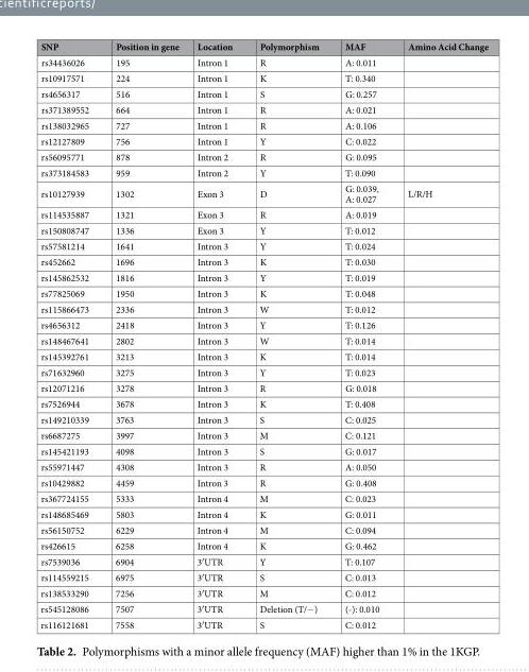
<table><thead><tr><td>SNP</td><td>Position in gene</td><td>Location</td><td>Polymorphism</td><td>MAF</td><td>Amino Acid Change</td></tr></thead><tbody><tr><td>rs34436026</td><td>195</td><td>Intron 1</td><td>R</td><td>A: 0.011</td><td></td></tr><tr><td>rs10917571</td><td>224</td><td>Intron 1</td><td>K</td><td>T: 0.340</td><td></td></tr><tr><td>rs4656317</td><td>516</td><td>Intron 1</td><td>S</td><td>G: 0.257</td><td></td></tr><tr><td>rs371389552</td><td>664</td><td>Intron 1</td><td>R</td><td>A: 0.021</td><td></td></tr><tr><td>rs138032965</td><td>727</td><td>Intron 1</td><td>R</td><td>A: 0.106</td><td></td></tr><tr><td>rs12127809</td><td>756</td><td>Intron 1</td><td>Y</td><td>C: 0.022</td><td></td></tr><tr><td>rs56095771</td><td>878</td><td>Intron 2</td><td>R</td><td>G: 0.095</td><td></td></tr><tr><td>rs373184583</td><td>959</td><td>Intron 2</td><td>Y</td><td>T: 0.090</td><td></td></tr><tr><td>rs10127939</td><td>1302</td><td>Exon 3</td><td>D</td><td>G: 0.039, A: 0.027</td><td>L/R/H</td></tr><tr><td>rs114535887</td><td>1321</td><td>Exon 3</td><td>R</td><td>A: 0.019</td><td></td></tr><tr><td>rs150808747</td><td>1336</td><td>Exon 3</td><td>Y</td><td>T: 0.012</td><td></td></tr><tr><td>rs57581214</td><td>1641</td><td>Intron 3</td><td>Y</td><td>T: 0.024</td><td></td></tr><tr><td>rs452662</td><td>1696</td><td>Intron 3</td><td>K</td><td>T: 0.030</td><td></td></tr><tr><td>rs145862532</td><td>1816</td><td>Intron 3</td><td>Y</td><td>T: 0.019</td><td></td></tr><tr><td>rs77825069</td><td>1950</td><td>Intron 3</td><td>K</td><td>T: 0.048</td><td></td></tr><tr><td>rs115866473</td><td>2336</td><td>Intron 3</td><td>W</td><td>T: 0.012</td><td></td></tr><tr><td>rs4656312</td><td>2418</td><td>Intron 3</td><td>Y</td><td>T: 0.126</td><td></td></tr><tr><td>rs148467641</td><td>2802</td><td>Intron 3</td><td>W</td><td>T: 0.014</td><td></td></tr><tr><td>rs145392761</td><td>3213</td><td>Intron 3</td><td>K</td><td>T: 0.014</td><td></td></tr><tr><td>rs71632960</td><td>3275</td><td>Intron 3</td><td>Y</td><td>T: 0.023</td><td></td></tr><tr><td>rs12071216</td><td>3278</td><td>Intron 3</td><td>R</td><td>G: 0.018</td><td></td></tr><tr><td>rs7526944</td><td>3678</td><td>Intron 3</td><td>K</td><td>T: 0.408</td><td></td></tr><tr><td>rs149210339</td><td>3763</td><td>Intron 3</td><td>S</td><td>C: 0.025</td><td></td></tr><tr><td>rs6687275</td><td>3997</td><td>Intron 3</td><td>M</td><td>C: 0.121</td><td></td></tr><tr><td>rs145421193</td><td>4098</td><td>Intron 3</td><td>S</td><td>G: 0.017</td><td></td></tr><tr><td>rs55971447</td><td>4308</td><td>Intron 3</td><td>R</td><td>A: 0.050</td><td></td></tr><tr><td>rs10429882</td><td>4459</td><td>Intron 3</td><td>R</td><td>G: 0.408</td><td></td></tr><tr><td>rs367724155</td><td>5333</td><td>Intron 4</td><td>M</td><td>C: 0.023</td><td></td></tr><tr><td>rs148685469</td><td>5803</td><td>Intron 4</td><td>K</td><td>G: 0.011</td><td></td></tr><tr><td>rs56150752</td><td>6229</td><td>Intron 4</td><td>M</td><td>C: 0.094</td><td></td></tr><tr><td>rs426615</td><td>6258</td><td>Intron 4</td><td>K</td><td>G: 0.462</td><td></td></tr><tr><td>rs7539036</td><td>6904</td><td>3′UTR</td><td>Y</td><td>T: 0.107</td><td></td></tr><tr><td>rs114559215</td><td>6975</td><td>3′UTR</td><td>S</td><td>C: 0.013</td><td></td></tr><tr><td>rs138533290</td><td>7256</td><td>3′UTR</td><td>M</td><td>C: 0.012</td><td></td></tr><tr><td>rs545128086</td><td>7507</td><td>3′UTR</td><td>Deletion (T/−)</td><td>(-): 0.010</td><td></td></tr><tr><td>rs116121681</td><td>7558</td><td>3′UTR</td><td>S</td><td>C: 0.012</td><td></td></tr></tbody></table>